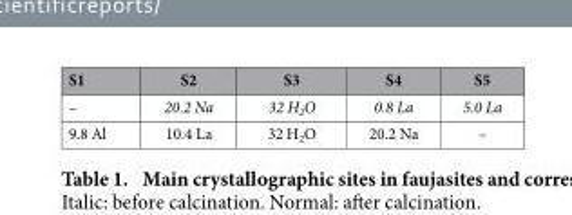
<table><thead><tr><td>S1</td><td>S2</td><td>S3</td><td>S4</td><td>S5</td></tr></thead><tbody><tr><td>–</td><td>20.2 Na</td><td>32 H<sub>2</sub>O</td><td>0.8 La</td><td>5.0 La</td></tr><tr><td>9.8 Al</td><td>10.4 La</td><td>32 H<sub>2</sub>O</td><td>20.2 Na</td><td>–</td></tr></tbody></table>